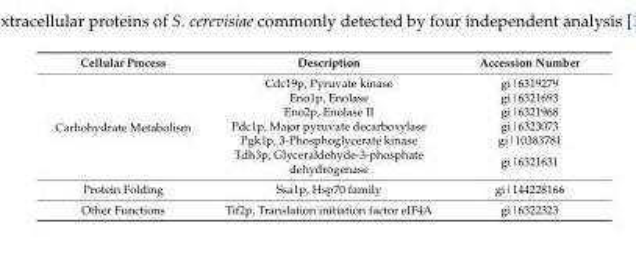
<table><thead><tr><td>Cellular Process</td><td>Description</td><td>Accession Number</td></tr></thead><tbody><tr><td rowspan="6">Carbohydrate Metabolism</td><td>Cdc19p, Pyruvate kinase</td><td>gi|6319279</td></tr><tr><td>Eno1p, Enolase</td><td>gi|6321693</td></tr><tr><td>Eno2p, Enolase II</td><td>gi|6321968</td></tr><tr><td>Pdc1p, Major pyruvate decarboxylase</td><td>gi|6323073</td></tr><tr><td>Pgk1p, 3-Phosphoglycerate kinase</td><td>gi|10383781</td></tr><tr><td>Tdh3p, Glyceraldehyde-3-phosphate dehydrogenase</td><td>gi|6321631</td></tr><tr><td>Protein Folding</td><td>Ssa1p, Hsp70 family</td><td>gi|144228166</td></tr><tr><td>Other Functions</td><td>Tif2p, Translation initiation factor eIF4A</td><td>gi|6322323</td></tr></tbody></table>